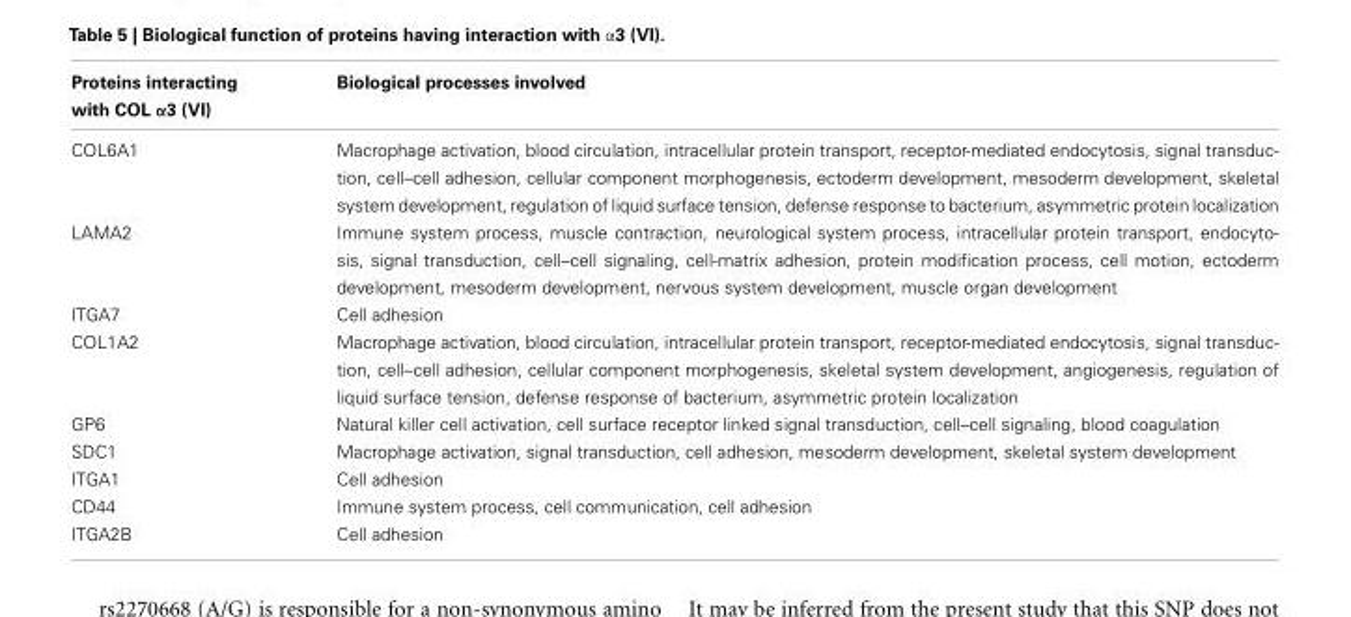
<table><thead><tr><td>Proteins interacting with COL α3 (VI)</td><td>Biological processes involved</td></tr></thead><tbody><tr><td>COL6A1</td><td>Macrophage activation, blood circulation, intracellular protein transport, receptor-mediated endocytosis, signal transduc- tion, cell–cell adhesion, cellular component morphogenesis, ectoderm development, mesoderm development, skeletal system development, regulation of liquid surface tension, defense response to bacterium, asymmetric protein localization</td></tr><tr><td>LAMA2</td><td>Immune system process, muscle contraction, neurological system process, intracellular protein transport, endocyto- sis, signal transduction, cell–cell signaling, cell-matrix adhesion, protein modification process, cell motion, ectoderm development, mesoderm development, nervous system development, muscle organ development</td></tr><tr><td>ITGA7</td><td>Cell adhesion</td></tr><tr><td>COL1A2</td><td>Macrophage activation, blood circulation, intracellular protein transport, receptor-mediated endocytosis, signal transduc- tion, cell–cell adhesion, cellular component morphogenesis, skeletal system development, angiogenesis, regulation of liquid surface tension, defense response of bacterium, asymmetric protein localization</td></tr><tr><td>GP6</td><td>Natural killer cell activation, cell surface receptor linked signal transduction, cell–cell signaling, blood coagulation</td></tr><tr><td>SDC1</td><td>Macrophage activation, signal transduction, cell adhesion, mesoderm development, skeletal system development</td></tr><tr><td>ITGA1</td><td>Cell adhesion</td></tr><tr><td>CD44</td><td>Immune system process, cell communication, cell adhesion</td></tr><tr><td>ITGA2B</td><td>Cell adhesion</td></tr></tbody></table>